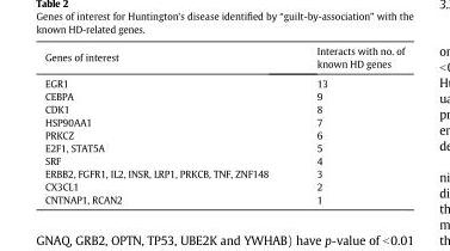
<table><thead><tr><td>Genes of interest</td><td>Interacts with no. of known HD genes</td></tr></thead><tbody><tr><td>EGR1</td><td>13</td></tr><tr><td>CEBPA</td><td>9</td></tr><tr><td>CDK1</td><td>8</td></tr><tr><td>HSP90AA1</td><td>7</td></tr><tr><td>PRKCZ</td><td>6</td></tr><tr><td>E2F1, STAT5A</td><td>5</td></tr><tr><td>SRF</td><td>4</td></tr><tr><td>ERBB2, FGFR1, IL2, INSR, LRP1, PRKCB, TNF, ZNF148</td><td>3</td></tr><tr><td>CX3CL1</td><td>2</td></tr><tr><td>CNTNAP1, RCAN2</td><td>1</td></tr></tbody></table>